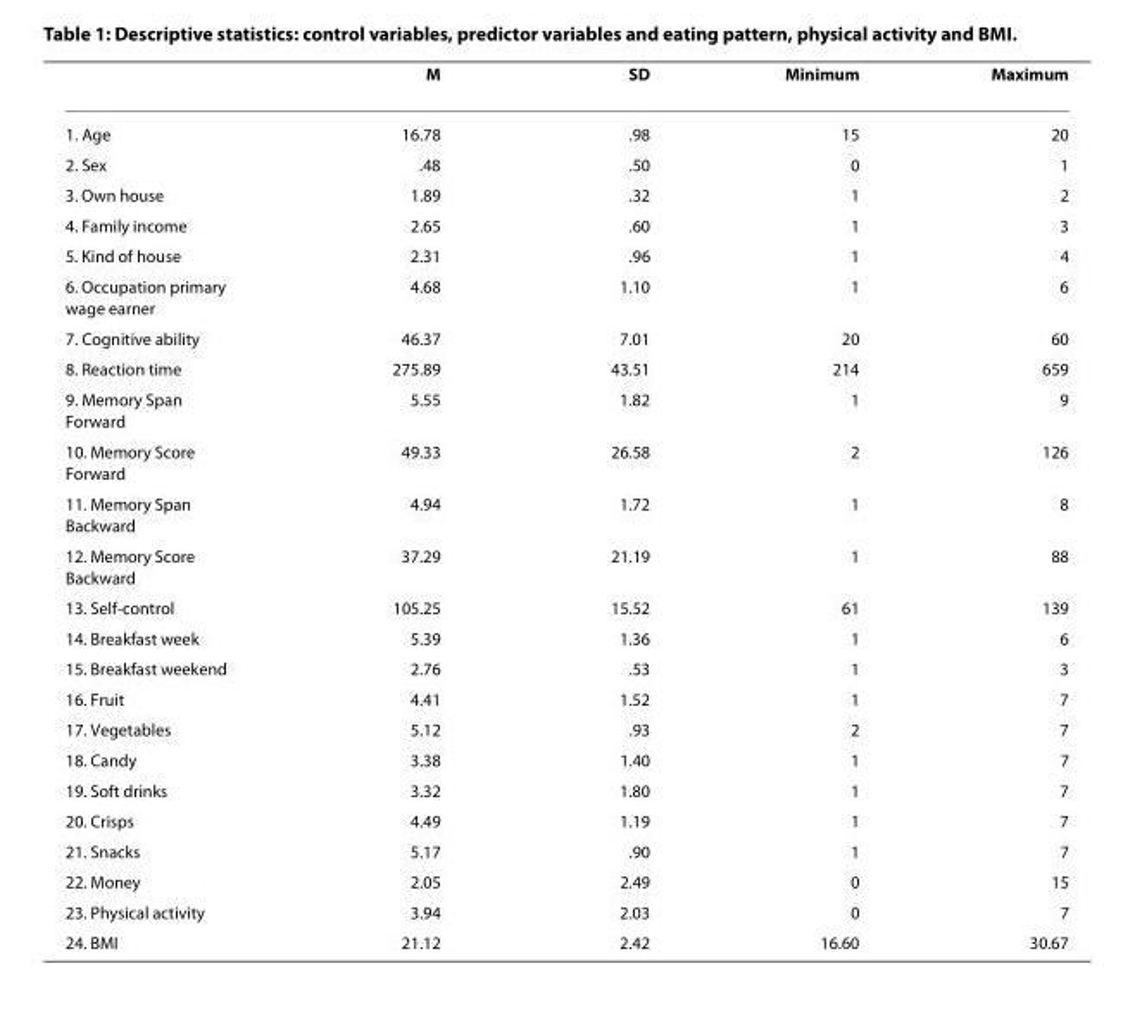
<table><thead><tr><td></td><td>M</td><td>SD</td><td>Minimum</td><td>Maximum</td></tr></thead><tbody><tr><td>1. Age</td><td>16.78</td><td>.98</td><td>15</td><td>20</td></tr><tr><td>2. Sex</td><td>.48</td><td>.50</td><td>0</td><td>1</td></tr><tr><td>3. Own house</td><td>1.89</td><td>.32</td><td>1</td><td>2</td></tr><tr><td>4. Family income</td><td>2.65</td><td>.60</td><td>1</td><td>3</td></tr><tr><td>5. Kind of house</td><td>2.31</td><td>.96</td><td>1</td><td>4</td></tr><tr><td>6. Occupation primary wage earner</td><td>4.68</td><td>1.10</td><td>1</td><td>6</td></tr><tr><td>7. Cognitive ability</td><td>46.37</td><td>7.01</td><td>20</td><td>60</td></tr><tr><td>8. Reaction time</td><td>275.89</td><td>43.51</td><td>214</td><td>659</td></tr><tr><td>9. Memory Span Forward</td><td>5.55</td><td>1.82</td><td>1</td><td>9</td></tr><tr><td>10. Memory Score Forward</td><td>49.33</td><td>26.58</td><td>2</td><td>126</td></tr><tr><td>11. Memory Span Backward</td><td>4.94</td><td>1.72</td><td>1</td><td>8</td></tr><tr><td>12. Memory Score Backward</td><td>37.29</td><td>21.19</td><td>1</td><td>88</td></tr><tr><td>13. Self-control</td><td>105.25</td><td>15.52</td><td>61</td><td>139</td></tr><tr><td>14. Breakfast week</td><td>5.39</td><td>1.36</td><td>1</td><td>6</td></tr><tr><td>15. Breakfast weekend</td><td>2.76</td><td>.53</td><td>1</td><td>3</td></tr><tr><td>16. Fruit</td><td>4.41</td><td>1.52</td><td>1</td><td>7</td></tr><tr><td>17. Vegetables</td><td>5.12</td><td>.93</td><td>2</td><td>7</td></tr><tr><td>18. Candy</td><td>3.38</td><td>1.40</td><td>1</td><td>7</td></tr><tr><td>19. Soft drinks</td><td>3.32</td><td>1.80</td><td>1</td><td>7</td></tr><tr><td>20. Crisps</td><td>4.49</td><td>1.19</td><td>1</td><td>7</td></tr><tr><td>21. Snacks</td><td>5.17</td><td>.90</td><td>1</td><td>7</td></tr><tr><td>22. Money</td><td>2.05</td><td>2.49</td><td>0</td><td>15</td></tr><tr><td>23. Physical activity</td><td>3.94</td><td>2.03</td><td>0</td><td>7</td></tr><tr><td>24. BMI</td><td>21.12</td><td>2.42</td><td>16.60</td><td>30.67</td></tr></tbody></table>